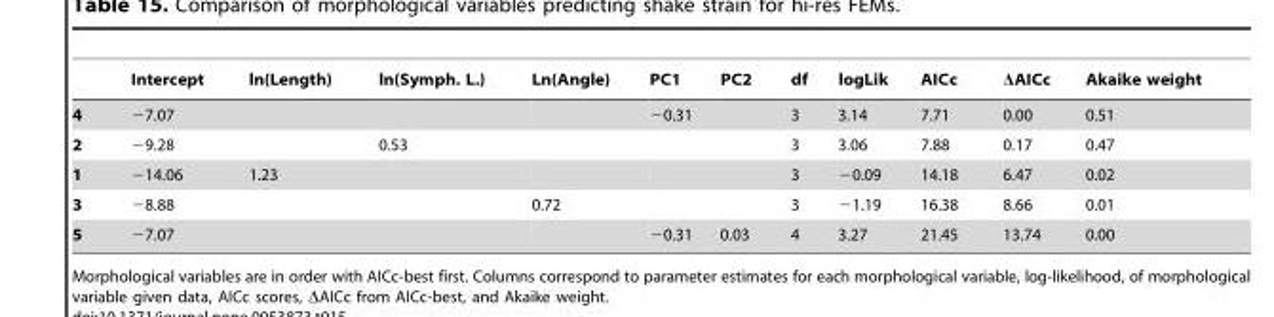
<table><thead><tr><td></td><td>Intercept</td><td>ln(Length)</td><td>ln(Symph. L.)</td><td>Ln(Angle)</td><td>PC1</td><td>PC2</td><td>df</td><td>logLik</td><td>AICc</td><td>ΔAICc</td><td>Akaike weight</td></tr></thead><tbody><tr><td>4</td><td>−7.07</td><td></td><td></td><td></td><td>−0.31</td><td></td><td>3</td><td>3.14</td><td>7.71</td><td>0.00</td><td>0.51</td></tr><tr><td>2</td><td>−9.28</td><td></td><td>0.53</td><td></td><td></td><td></td><td>3</td><td>3.06</td><td>7.88</td><td>0.17</td><td>0.47</td></tr><tr><td>1</td><td>−14.06</td><td>1.23</td><td></td><td></td><td></td><td></td><td>3</td><td>−0.09</td><td>14.18</td><td>6.47</td><td>0.02</td></tr><tr><td>3</td><td>−8.88</td><td></td><td></td><td>0.72</td><td></td><td></td><td>3</td><td>−1.19</td><td>16.38</td><td>8.66</td><td>0.01</td></tr><tr><td>5</td><td>−7.07</td><td></td><td></td><td></td><td>−0.31</td><td>0.03</td><td>4</td><td>3.27</td><td>21.45</td><td>13.74</td><td>0.00</td></tr></tbody></table>